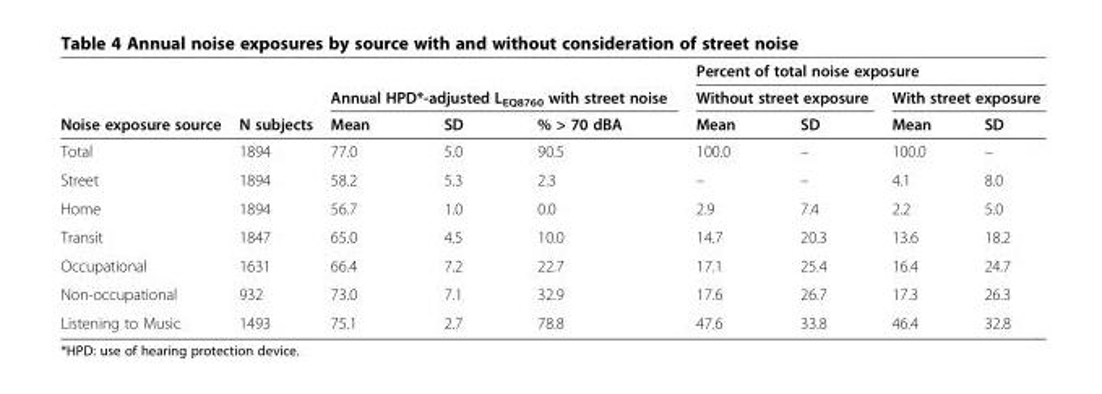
<table><thead><tr><td rowspan="3">Noise exposure source</td><td rowspan="3">N subjects</td><td></td><td></td><td></td><td colspan="4">Percent of total noise exposure</td></tr><tr><td colspan="3">Annual HPD*-adjusted L<sub>EQ8760</sub> with street noise</td><td colspan="2">Without street exposure</td><td colspan="2">With street exposure</td></tr><tr><td>Mean</td><td>SD</td><td>% &gt; 70 dBA</td><td>Mean</td><td>SD</td><td>Mean</td><td>SD</td></tr></thead><tbody><tr><td>Total</td><td>1894</td><td>77.0</td><td>5.0</td><td>90.5</td><td>100.0</td><td>–</td><td>100.0</td><td>–</td></tr><tr><td>Street</td><td>1894</td><td>58.2</td><td>5.3</td><td>2.3</td><td>–</td><td>–</td><td>4.1</td><td>8.0</td></tr><tr><td>Home</td><td>1894</td><td>56.7</td><td>1.0</td><td>0.0</td><td>2.9</td><td>7.4</td><td>2.2</td><td>5.0</td></tr><tr><td>Transit</td><td>1847</td><td>65.0</td><td>4.5</td><td>10.0</td><td>14.7</td><td>20.3</td><td>13.6</td><td>18.2</td></tr><tr><td>Occupational</td><td>1631</td><td>66.4</td><td>7.2</td><td>22.7</td><td>17.1</td><td>25.4</td><td>16.4</td><td>24.7</td></tr><tr><td>Non-occupational</td><td>932</td><td>73.0</td><td>7.1</td><td>32.9</td><td>17.6</td><td>26.7</td><td>17.3</td><td>26.3</td></tr><tr><td>Listening to Music</td><td>1493</td><td>75.1</td><td>2.7</td><td>78.8</td><td>47.6</td><td>33.8</td><td>46.4</td><td>32.8</td></tr></tbody></table>